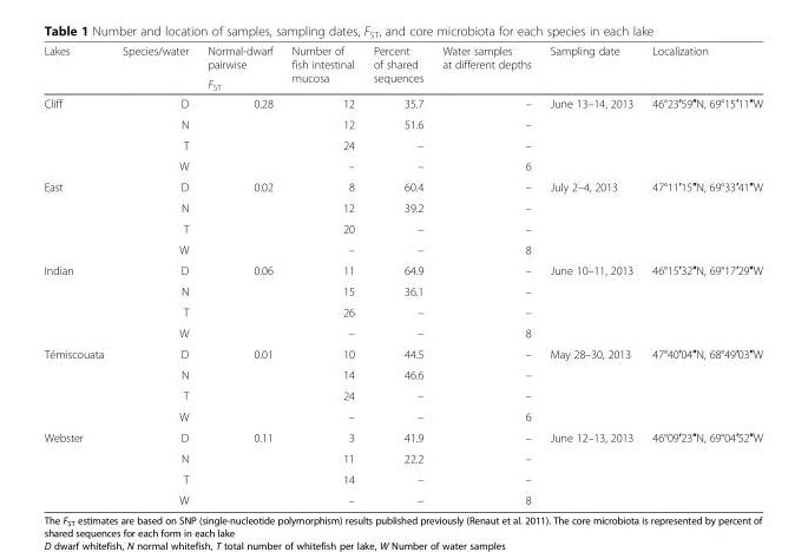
<table><thead><tr><td rowspan="2">Lakes</td><td rowspan="2">Species/water</td><td rowspan="2">Normal-dwarf pairwise F<sub>ST</sub></td><td rowspan="2">Number of fish intestinal mucosa</td><td rowspan="2">Percent of shared sequences</td><td rowspan="2">Water samples at different depths</td><td rowspan="2">Sampling date</td><td rowspan="2">Localization</td></tr><tr></tr></thead><tbody><tr><td rowspan="4">Cliff</td><td>D</td><td rowspan="4">0.28</td><td>12</td><td>35.7</td><td>–</td><td rowspan="4">June 13–14, 2013</td><td rowspan="4">46°23′59″N, 69°15′11″W</td></tr><tr><td>N</td><td>12</td><td>51.6</td><td>–</td></tr><tr><td>T</td><td>24</td><td>–</td><td>–</td></tr><tr><td>W</td><td>–</td><td>–</td><td>6</td></tr><tr><td rowspan="4">East</td><td>D</td><td rowspan="4">0.02</td><td>8</td><td>60.4</td><td>–</td><td rowspan="4">July 2–4, 2013</td><td rowspan="4">47°11′15″N, 69°33′41″W</td></tr><tr><td>N</td><td>12</td><td>39.2</td><td>–</td></tr><tr><td>T</td><td>20</td><td>–</td><td>–</td></tr><tr><td>W</td><td>–</td><td>–</td><td>8</td></tr><tr><td rowspan="4">Indian</td><td>D</td><td rowspan="4">0.06</td><td>11</td><td>64.9</td><td>–</td><td rowspan="4">June 10–11, 2013</td><td rowspan="4">46°15′32″N, 69°17′29″W</td></tr><tr><td>N</td><td>15</td><td>36.1</td><td>–</td></tr><tr><td>T</td><td>26</td><td>–</td><td>–</td></tr><tr><td>W</td><td>–</td><td>–</td><td>8</td></tr><tr><td rowspan="4">Témiscouata</td><td>D</td><td rowspan="4">0.01</td><td>10</td><td>44.5</td><td>–</td><td rowspan="4">May 28–30, 2013</td><td rowspan="4">47°40′04″N, 68°49′03″W</td></tr><tr><td>N</td><td>14</td><td>46.6</td><td>–</td></tr><tr><td>T</td><td>24</td><td>–</td><td>–</td></tr><tr><td>W</td><td>–</td><td>–</td><td>6</td></tr><tr><td rowspan="4">Webster</td><td>D</td><td rowspan="4">0.11</td><td>3</td><td>41.9</td><td>–</td><td rowspan="4">June 12–13, 2013</td><td rowspan="4">46°09′23″N, 69°04′52″W</td></tr><tr><td>N</td><td>11</td><td>22.2</td><td>–</td></tr><tr><td>T</td><td>14</td><td>–</td><td>–</td></tr><tr><td>W</td><td>–</td><td>–</td><td>8</td></tr></tbody></table>